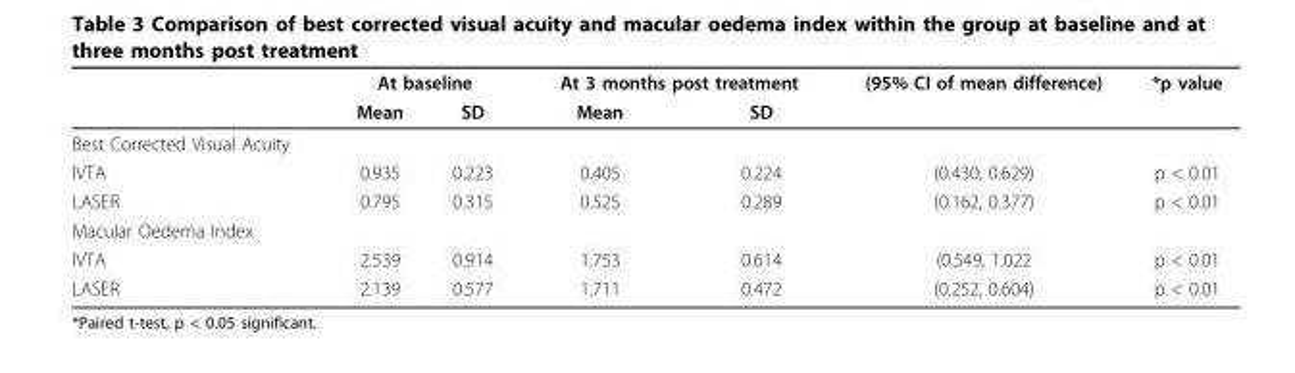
<table><thead><tr><td rowspan="2"></td><td colspan="2">At baseline</td><td colspan="2">At 3 months post treatment</td><td rowspan="2">(95% CI of mean difference)</td><td rowspan="2">*p value</td></tr><tr><td>Mean</td><td>SD</td><td>Mean</td><td>SD</td></tr></thead><tbody><tr><td colspan="7">Best Corrected Visual Acuity</td></tr><tr><td>IVTA</td><td>0.935</td><td>0.223</td><td>0.405</td><td>0.224</td><td>(0.430, 0.629)</td><td>p &lt; 0.01</td></tr><tr><td>LASER</td><td>0.795</td><td>0.315</td><td>0.525</td><td>0.289</td><td>(0.162, 0.377)</td><td>p &lt; 0.01</td></tr><tr><td colspan="7">Macular Oedema Index</td></tr><tr><td>IVTA</td><td>2.539</td><td>0.914</td><td>1.753</td><td>0.614</td><td>(0.549, 1.022</td><td>p &lt; 0.01</td></tr><tr><td>LASER</td><td>2.139</td><td>0.577</td><td>1.711</td><td>0.472</td><td>(0.252, 0.604)</td><td>p &lt; 0.01</td></tr></tbody></table>